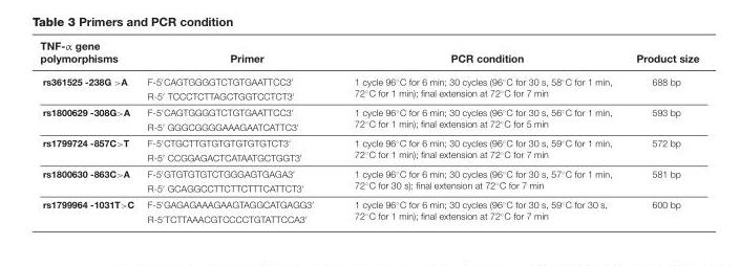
<table><thead><tr><td>TNF-α gene polymorphisms</td><td>Primer</td><td>PCR condition</td><td>Product size</td></tr></thead><tbody><tr><td rowspan="2">rs361525 -238G &gt;A</td><td>F-5′CAGTGGGGTCTGTGAATTCC3′</td><td rowspan="2">1 cycle 96◦C for 6 min; 30 cycles (96◦C for 30 s, 58◦C for 1 min, 72◦C for 1 min); final extension at 72◦C for 7 min</td><td rowspan="2">688 bp</td></tr><tr><td>R-5′ TCCCTCTTAGCTGGTCCTCT3′</td></tr><tr><td rowspan="2">rs1800629 -308G&gt;A</td><td>F-5′CAGTGGGGTCTGTGAATTCC3′</td><td rowspan="2">1 cycle 96◦C for 6 min; 30 cycles (96◦C for 30 s, 56◦C for 1 min, 72◦C for 1 min); final extension at 72◦C for 5 min</td><td rowspan="2">593 bp</td></tr><tr><td>R-5′ GGGCGGGGAAAGAATCATTC3′</td></tr><tr><td rowspan="2">rs1799724 -857C&gt;T</td><td>F-5′CTGCTTGTGTGTGTGTGTCT3′</td><td rowspan="2">1 cycle 96◦C for 6 min; 30 cycles (96◦C for 30 s, 59◦C for 1 min, 72◦C for 1 min); final extension at 72◦C for 7 min</td><td rowspan="2">572 bp</td></tr><tr><td>R-5′ CCGGAGACTCATAATGCTGGT3′</td></tr><tr><td rowspan="2">rs1800630 -863C&gt;A</td><td>F-5′GTGTGTGTCTGGGAGTGAGA3′</td><td rowspan="2">1 cycle 96◦C for 6 min; 30 cycles (96◦C for 30 s, 57◦C for 1 min, 72◦C for 30 s); final extension at 72◦C for 7 min</td><td rowspan="2">581 bp</td></tr><tr><td>R-5′ GCAGGCCTTCTTCTTTCATTCT3′</td></tr><tr><td rowspan="2">rs1799964 -1031T&gt;C</td><td>F-5′GAGAGAAAGAAGTAGGCATGAGG3′</td><td rowspan="2">1 cycle 96◦C for 6 min; 30 cycles (96◦C for 30 s, 59◦C for 30 s, 72◦C for 1 min); final extension at 72◦C for 7 min</td><td rowspan="2">600 bp</td></tr><tr><td>R-5′TCTTAAACGTCCCCTGTATTCCA3′</td></tr></tbody></table>